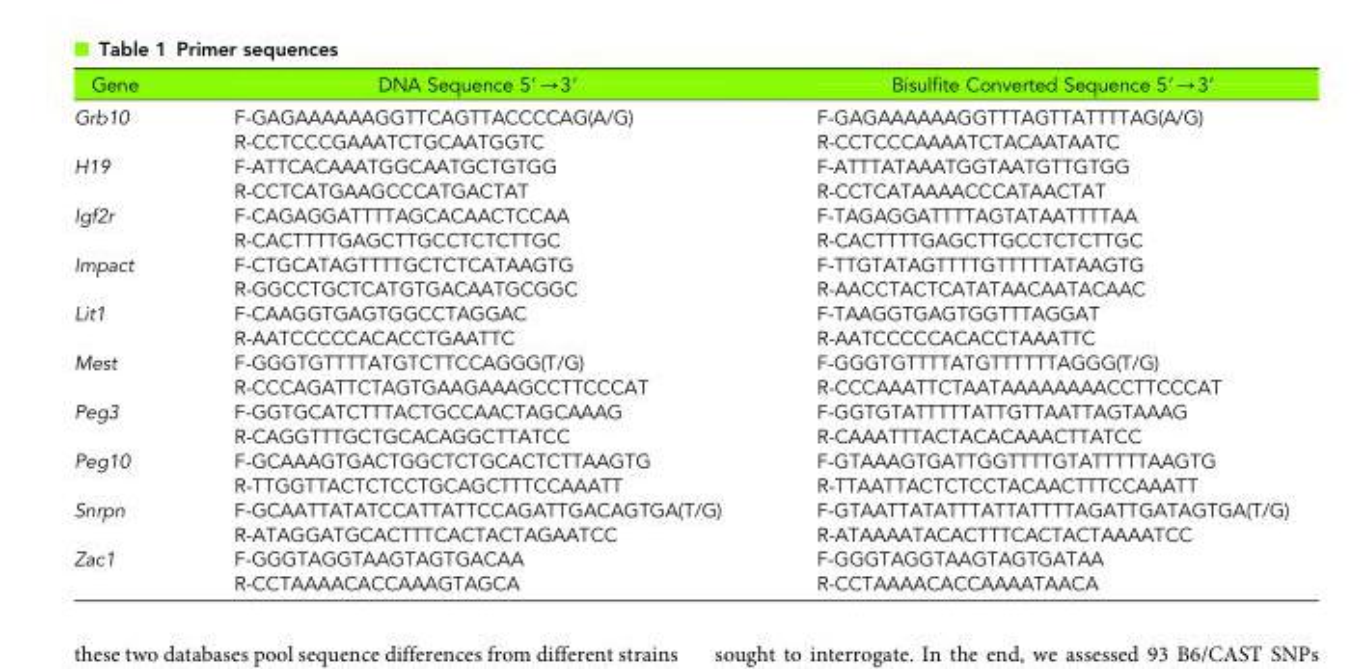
<table><thead><tr><td>Gene</td><td>DNA Sequence 5′→3′</td><td>Bisulfite Converted Sequence 5′→3′</td></tr></thead><tbody><tr><td rowspan="2">Grb10</td><td>F-GAGAAAAAAGGTTCAGTTACCCCAG(A/G)</td><td>F-GAGAAAAAAGGTTTAGTTATTTTAG(A/G)</td></tr><tr><td>R-CCTCCCGAAATCTGCAATGGTC</td><td>R-CCTCCCAAAATCTACAATAATC</td></tr><tr><td rowspan="2">H19</td><td>F-ATTCACAAATGGCAATGCTGTGG</td><td>F-ATTTATAAATGGTAATGTTGTGG</td></tr><tr><td>R-CCTCATGAAGCCCATGACTAT</td><td>R-CCTCATAAAACCCATAACTAT</td></tr><tr><td rowspan="2">Igf2r</td><td>F-CAGAGGATTTTAGCACAACTCCAA</td><td>F-TAGAGGATTTTAGTATAATTTTAA</td></tr><tr><td>R-CACTTTTGAGCTTGCCTCTCTTGC</td><td>R-CACTTTTGAGCTTGCCTCTCTTGC</td></tr><tr><td rowspan="2">Impact</td><td>F-CTGCATAGTTTTGCTCTCATAAGTG</td><td>F-TTGTATAGTTTTGTTTTTATAAGTG</td></tr><tr><td>R-GGCCTGCTCATGTGACAATGCGGC</td><td>R-AACCTACTCATATAACAATACAAC</td></tr><tr><td rowspan="2">Lit1</td><td>F-CAAGGTGAGTGGCCTAGGAC</td><td>F-TAAGGTGAGTGGTTTAGGAT</td></tr><tr><td>R-AATCCCCCACACCTGAATTC</td><td>R-AATCCCCCACACCTAAATTC</td></tr><tr><td rowspan="2">Mest</td><td>F-GGGTGTTTTATGTCTTCCAGGG(T/G)</td><td>F-GGGTGTTTTATGTTTTTTAGGG(T/G)</td></tr><tr><td>R-CCCAGATTCTAGTGAAGAAAGCCTTCCCAT</td><td>R-CCCAAATTCTAATAAAAAAAACCTTCCCAT</td></tr><tr><td rowspan="2">Peg3</td><td>F-GGTGCATCTTTACTGCCAACTAGCAAAG</td><td>F-GGTGTATTTTTATTGTTAATTAGTAAAG</td></tr><tr><td>R-CAGGTTTGCTGCACAGGCTTATCC</td><td>R-CAAATTTACTACACAAACTTATCC</td></tr><tr><td rowspan="2">Peg10</td><td>F-GCAAAGTGACTGGCTCTGCACTCTTAAGTG</td><td>F-GTAAAGTGATTGGTTTTGTATTTTTAAGTG</td></tr><tr><td>R-TTGGTTACTCTCCTGCAGCTTTCCAAATT</td><td>R-TTAATTACTCTCCTACAACTTTCCAAATT</td></tr><tr><td rowspan="2">Snrpn</td><td>F-GCAATTATATCCATTATTCCAGATTGACAGTGA(T/G)</td><td>F-GTAATTATATTTATTATTTTAGATTGATAGTGA(T/G)</td></tr><tr><td>R-ATAGGATGCACTTTCACTACTAGAATCC</td><td>R-ATAAAATACACTTTCACTACTAAAATCC</td></tr><tr><td rowspan="2">Zac1</td><td>F-GGGTAGGTAAGTAGTGACAA</td><td>F-GGGTAGGTAAGTAGTGATAA</td></tr><tr><td>R-CCTAAAACACCAAAGTAGCA</td><td>R-CCTAAAACACCAAAATAACA</td></tr></tbody></table>